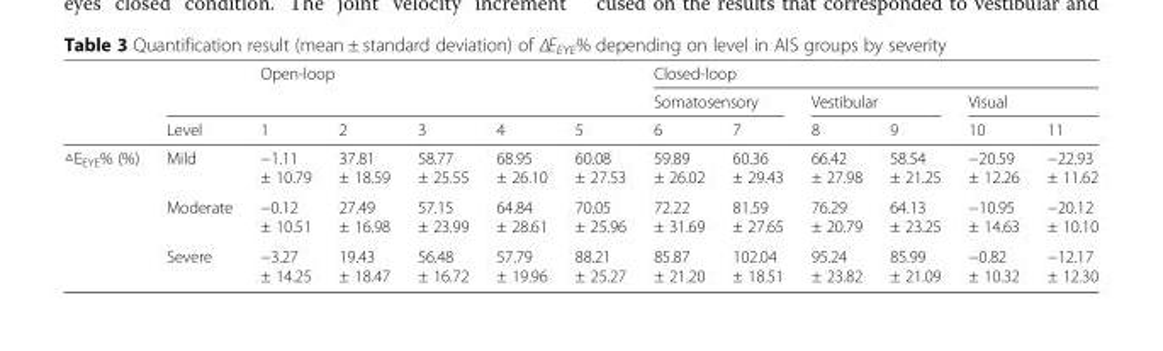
<table><thead><tr><td rowspan="3"></td><td rowspan="3">Level</td><td rowspan="2" colspan="5">Open-loop</td><td colspan="6">Closed-loop</td></tr><tr><td colspan="2">Somatosensory</td><td colspan="2">Vestibular</td><td colspan="2">Visual</td></tr><tr><td>1</td><td>2</td><td>3</td><td>4</td><td>5</td><td>6</td><td>7</td><td>8</td><td>9</td><td>10</td><td>11</td></tr></thead><tbody><tr><td rowspan="3">△E<sub>EYE</sub>% (%)</td><td>Mild</td><td>−1.11 ± 10.79</td><td>37.81 ± 18.59</td><td>58.77 ± 25.55</td><td>68.95 ± 26.10</td><td>60.08 ± 27.53</td><td>59.89 ± 26.02</td><td>60.36 ± 29.43</td><td>66.42 ± 27.98</td><td>58.54 ± 21.25</td><td>−20.59 ± 12.26</td><td>−22.93 ± 11.62</td></tr><tr><td>Moderate</td><td>−0.12 ± 10.51</td><td>27.49 ± 16.98</td><td>57.15 ± 23.99</td><td>64.84 ± 28.61</td><td>70.05 ± 25.96</td><td>72.22 ± 31.69</td><td>81.59 ± 27.65</td><td>76.29 ± 20.79</td><td>64.13 ± 23.25</td><td>−10.95 ± 14.63</td><td>−20.12 ± 10.10</td></tr><tr><td>Severe</td><td>−3.27 ± 14.25</td><td>19.43 ± 18.47</td><td>56.48 ± 16.72</td><td>57.79 ± 19.96</td><td>88.21 ± 25.27</td><td>85.87 ± 21.20</td><td>102.04 ± 18.51</td><td>95.24 ± 23.82</td><td>85.99 ± 21.09</td><td>−0.82 ± 10.32</td><td>−12.17 ± 12.30</td></tr></tbody></table>